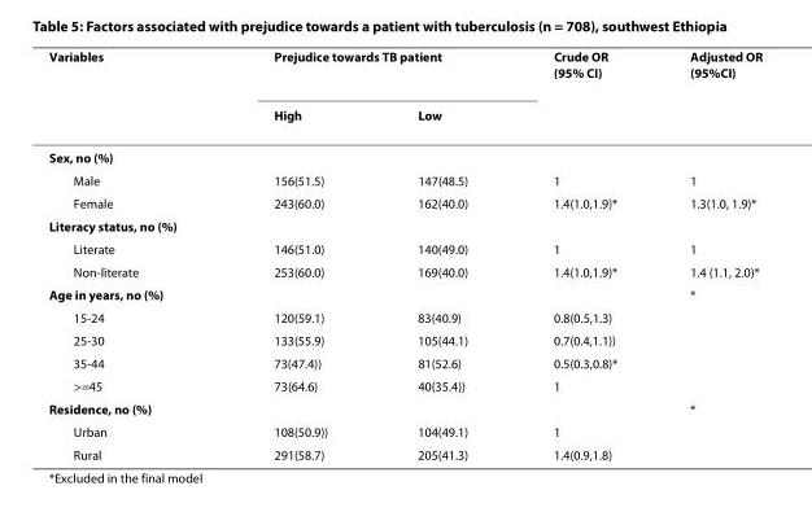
<table><thead><tr><td rowspan="2">Variables</td><td colspan="2">Prejudice towards TB patient</td><td rowspan="2">Crude OR (95% CI)</td><td rowspan="2">Adjusted OR (95%CI)</td></tr><tr><td>High</td><td>Low</td></tr></thead><tbody><tr><td colspan="5">Sex, no (%)</td></tr><tr><td>Male</td><td>156(51.5)</td><td>147(48.5)</td><td>1</td><td>1</td></tr><tr><td>Female</td><td>243(60.0)</td><td>162(40.0)</td><td>1.4(1.0,1.9)*</td><td>1.3(1.0, 1.9)*</td></tr><tr><td colspan="5">Literacy status, no (%)</td></tr><tr><td>Literate</td><td>146(51.0)</td><td>140(49.0)</td><td>1</td><td>1</td></tr><tr><td>Non-literate</td><td>253(60.0)</td><td>169(40.0)</td><td>1.4(1.0,1.9)*</td><td>1.4 (1.1, 2.0)*</td></tr><tr><td>Age in years, no (%)</td><td></td><td></td><td></td><td>*</td></tr><tr><td>15-24</td><td>120(59.1)</td><td>83(40.9)</td><td>0.8(0.5,1.3)</td><td></td></tr><tr><td>25-30</td><td>133(55.9)</td><td>105(44.1)</td><td>0.7(0.4,1.1))</td><td></td></tr><tr><td>35-44</td><td>73(47.4))</td><td>81(52.6)</td><td>0.5(0.3,0.8)*</td><td></td></tr><tr><td>&gt;=45</td><td>73(64.6)</td><td>40(35.4))</td><td>1</td><td></td></tr><tr><td>Residence, no (%)</td><td></td><td></td><td></td><td>*</td></tr><tr><td>Urban</td><td>108(50.9))</td><td>104(49.1)</td><td>1</td><td></td></tr><tr><td>Rural</td><td>291(58.7)</td><td>205(41.3)</td><td>1.4(0.9,1.8)</td><td></td></tr></tbody></table>